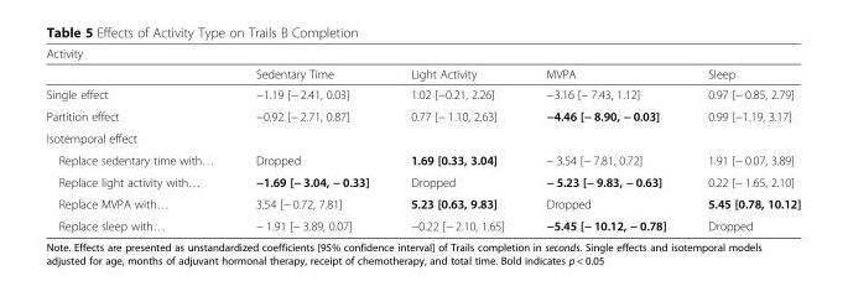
<table><thead><tr><td colspan="5">Activity</td></tr><tr><td></td><td>Sedentary Time</td><td>Light Activity</td><td>MVPA</td><td>Sleep</td></tr></thead><tbody><tr><td>Single effect</td><td>−1.19 [− 2.41, 0.03]</td><td>1.02 [−0.21, 2.26]</td><td>−3.16 [− 7.43, 1.12]</td><td>0.97 [− 0.85, 2.79]</td></tr><tr><td>Partition effect</td><td>−0.92 [− 2.71, 0.87]</td><td>0.77 [− 1.10, 2.63]</td><td>−4.46 [− 8.90, − 0.03]</td><td>0.99 [−1.19, 3.17]</td></tr><tr><td colspan="5">Isotemporal effect</td></tr><tr><td>Replace sedentary time with…</td><td>Dropped</td><td>1.69 [0.33, 3.04]</td><td>− 3.54 [− 7.81, 0.72]</td><td>1.91 [− 0.07, 3.89]</td></tr><tr><td>Replace light activity with…</td><td>−1.69 [− 3.04, − 0.33]</td><td>Dropped</td><td>− 5.23 [− 9.83, − 0.63]</td><td>0.22 [− 1.65, 2.10]</td></tr><tr><td>Replace MVPA with…</td><td>3.54 [− 0.72, 7.81]</td><td>5.23 [0.63, 9.83]</td><td>Dropped</td><td>5.45 [0.78, 10.12]</td></tr><tr><td>Replace sleep with…</td><td>− 1.91 [− 3.89, 0.07]</td><td>−0.22 [− 2.10, 1.65]</td><td>−5.45 [− 10.12, − 0.78]</td><td>Dropped</td></tr></tbody></table>